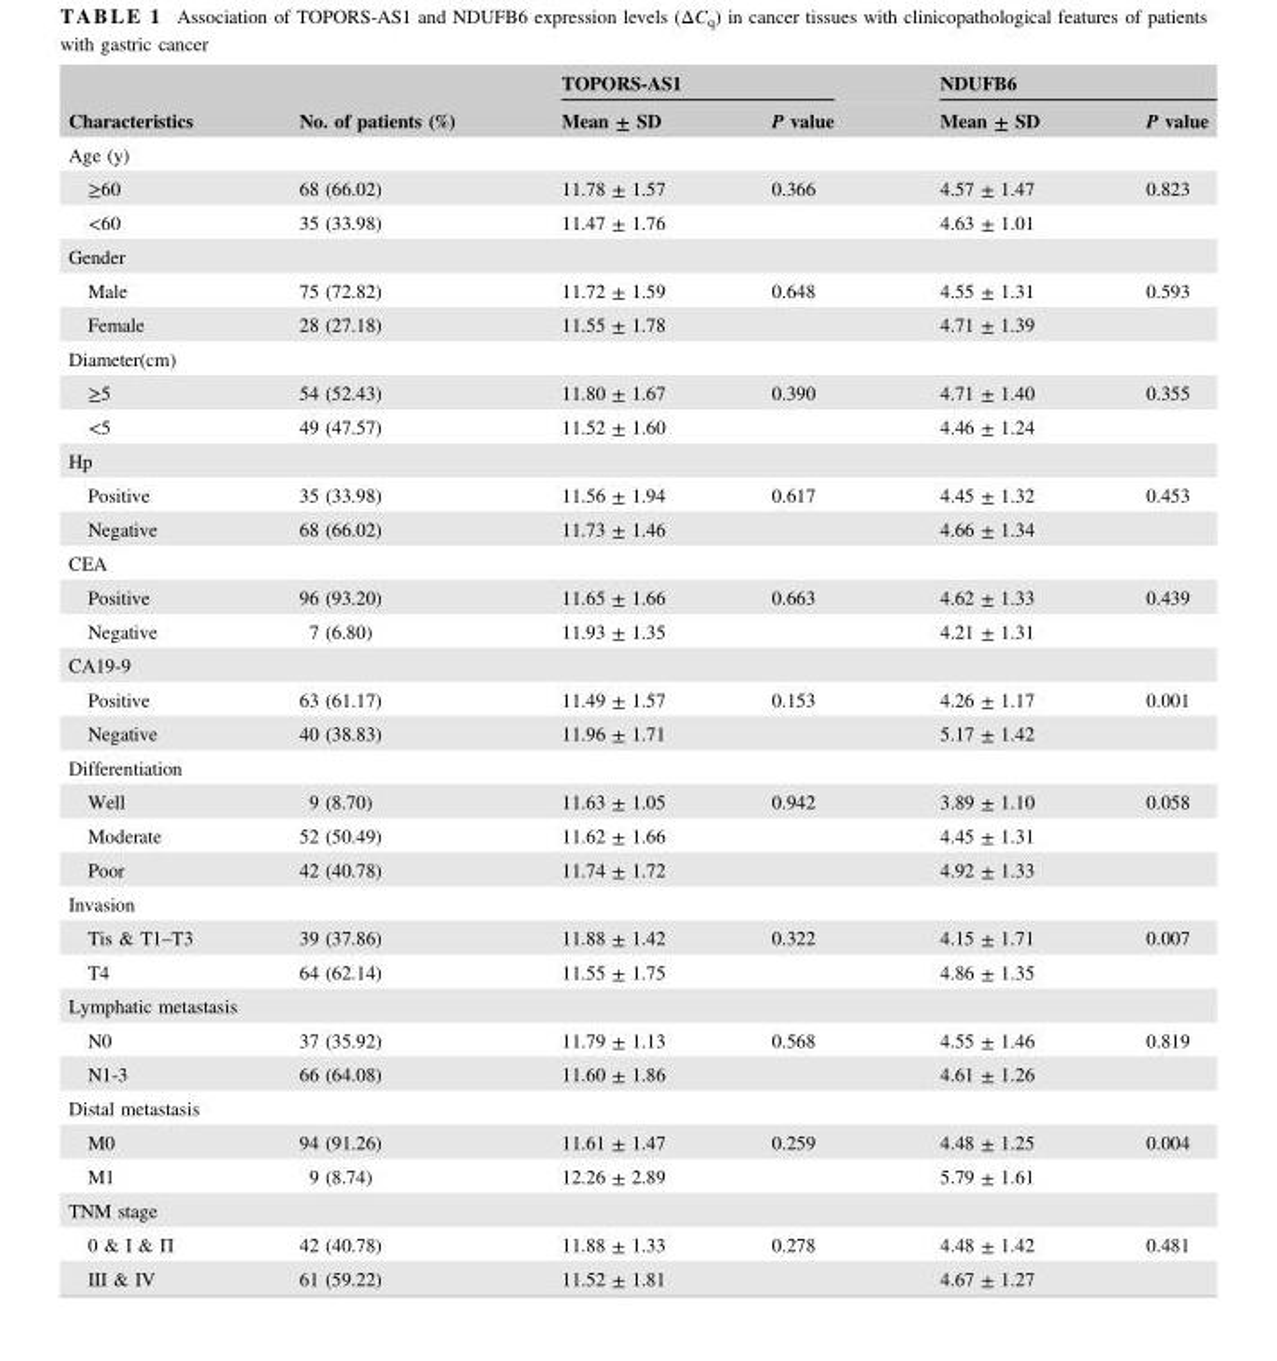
<table><thead><tr><td rowspan="2">Characteristics</td><td rowspan="2">No. of patients (%)</td><td colspan="2">TOPORS‐AS1</td><td colspan="2">NDUFB6</td></tr><tr><td>Mean ± SD</td><td>P value</td><td>Mean ± SD</td><td>P value</td></tr></thead><tbody><tr><td colspan="6">Age (y)</td></tr><tr><td>≥60</td><td>68 (66.02)</td><td>11.78 ± 1.57</td><td>0.366</td><td>4.57 ± 1.47</td><td>0.823</td></tr><tr><td>&lt;60</td><td>35 (33.98)</td><td>11.47 ± 1.76</td><td></td><td>4.63 ± 1.01</td><td></td></tr><tr><td colspan="6">Gender</td></tr><tr><td>Male</td><td>75 (72.82)</td><td>11.72 ± 1.59</td><td>0.648</td><td>4.55 ± 1.31</td><td>0.593</td></tr><tr><td>Female</td><td>28 (27.18)</td><td>11.55 ± 1.78</td><td></td><td>4.71 ± 1.39</td><td></td></tr><tr><td colspan="6">Diameter(cm)</td></tr><tr><td>≥5</td><td>54 (52.43)</td><td>11.80 ± 1.67</td><td>0.390</td><td>4.71 ± 1.40</td><td>0.355</td></tr><tr><td>&lt;5</td><td>49 (47.57)</td><td>11.52 ± 1.60</td><td></td><td>4.46 ± 1.24</td><td></td></tr><tr><td colspan="6">Hp</td></tr><tr><td>Positive</td><td>35 (33.98)</td><td>11.56 ± 1.94</td><td>0.617</td><td>4.45 ± 1.32</td><td>0.453</td></tr><tr><td>Negative</td><td>68 (66.02)</td><td>11.73 ± 1.46</td><td></td><td>4.66 ± 1.34</td><td></td></tr><tr><td colspan="6">CEA</td></tr><tr><td>Positive</td><td>96 (93.20)</td><td>11.65 ± 1.66</td><td>0.663</td><td>4.62 ± 1.33</td><td>0.439</td></tr><tr><td>Negative</td><td>7 (6.80)</td><td>11.93 ± 1.35</td><td></td><td>4.21 ± 1.31</td><td></td></tr><tr><td colspan="6">CA19‐9</td></tr><tr><td>Positive</td><td>63 (61.17)</td><td>11.49 ± 1.57</td><td>0.153</td><td>4.26 ± 1.17</td><td>0.001</td></tr><tr><td>Negative</td><td>40 (38.83)</td><td>11.96 ± 1.71</td><td></td><td>5.17 ± 1.42</td><td></td></tr><tr><td colspan="6">Differentiation</td></tr><tr><td>Well</td><td>9 (8.70)</td><td>11.63 ± 1.05</td><td>0.942</td><td>3.89 ± 1.10</td><td>0.058</td></tr><tr><td>Moderate</td><td>52 (50.49)</td><td>11.62 ± 1.66</td><td></td><td>4.45 ± 1.31</td><td></td></tr><tr><td>Poor</td><td>42 (40.78)</td><td>11.74 ± 1.72</td><td></td><td>4.92 ± 1.33</td><td></td></tr><tr><td colspan="6">Invasion</td></tr><tr><td>Tis &amp; T1–T3</td><td>39 (37.86)</td><td>11.88 ± 1.42</td><td>0.322</td><td>4.15 ± 1.71</td><td>0.007</td></tr><tr><td>T4</td><td>64 (62.14)</td><td>11.55 ± 1.75</td><td></td><td>4.86 ± 1.35</td><td></td></tr><tr><td colspan="6">Lymphatic metastasis</td></tr><tr><td>N0</td><td>37 (35.92)</td><td>11.79 ± 1.13</td><td>0.568</td><td>4.55 ± 1.46</td><td>0.819</td></tr><tr><td>N1‐3</td><td>66 (64.08)</td><td>11.60 ± 1.86</td><td></td><td>4.61 ± 1.26</td><td></td></tr><tr><td colspan="6">Distal metastasis</td></tr><tr><td>M0</td><td>94 (91.26)</td><td>11.61 ± 1.47</td><td>0.259</td><td>4.48 ± 1.25</td><td>0.004</td></tr><tr><td>M1</td><td>9 (8.74)</td><td>12.26 ± 2.89</td><td></td><td>5.79 ± 1.61</td><td></td></tr><tr><td colspan="6">TNM stage</td></tr><tr><td>0 &amp; Ι &amp; П</td><td>42 (40.78)</td><td>11.88 ± 1.33</td><td>0.278</td><td>4.48 ± 1.42</td><td>0.481</td></tr><tr><td>Ш &amp; ΙV</td><td>61 (59.22)</td><td>11.52 ± 1.81</td><td></td><td>4.67 ± 1.27</td><td></td></tr></tbody></table>